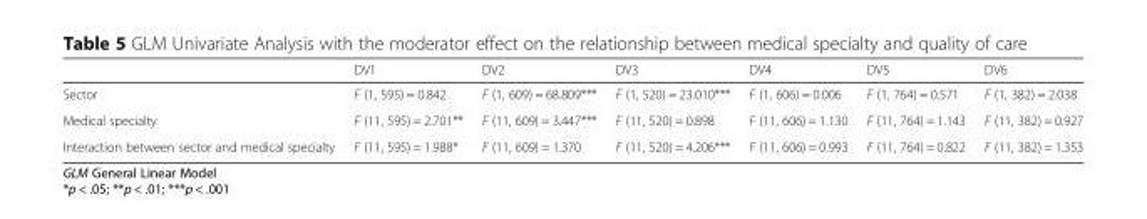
<table><thead><tr><td></td><td>DV1</td><td>DV2</td><td>DV3</td><td>DV4</td><td>DV5</td><td>DV6</td></tr></thead><tbody><tr><td>Sector</td><td>F (1, 595) = 0.842</td><td>F (1, 609) = 68.809***</td><td>F (1, 520) = 23.010***</td><td>F (1, 606) = 0.006</td><td>F (1, 764) = 0.571</td><td>F (1, 382) = 2.038</td></tr><tr><td>Medical specialty</td><td>F (11, 595) = 2.701**</td><td>F (11, 609) = 3.447***</td><td>F (11, 520) = 0.898</td><td>F (11, 606) = 1.130</td><td>F (11, 764) = 1.143</td><td>F (11, 382) = 0.927</td></tr><tr><td>Interaction between sector and medical specialty</td><td>F (11, 595) = 1.988*</td><td>F (11, 609) = 1.370</td><td>F (11, 520) = 4.206***</td><td>F (11, 606) = 0.993</td><td>F (11, 764) = 0.822</td><td>F (11, 382) = 1.353</td></tr></tbody></table>